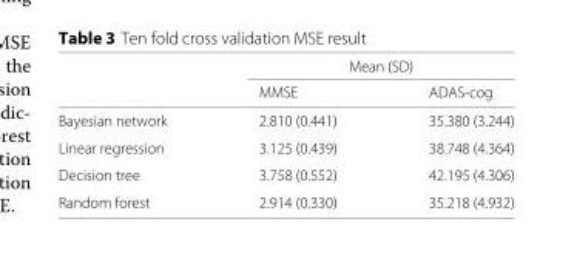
<table><thead><tr><td rowspan="2"></td><td colspan="2">Mean (SD)</td></tr><tr><td>MMSE</td><td>ADAS-cog</td></tr></thead><tbody><tr><td>Bayesian network</td><td>2.810 (0.441)</td><td>35.380 (3.244)</td></tr><tr><td>Linear regression</td><td>3.125 (0.439)</td><td>38.748 (4.364)</td></tr><tr><td>Decision tree</td><td>3.758 (0.552)</td><td>42.195 (4.306)</td></tr><tr><td>Random forest</td><td>2.914 (0.330)</td><td>35.218 (4.932)</td></tr></tbody></table>